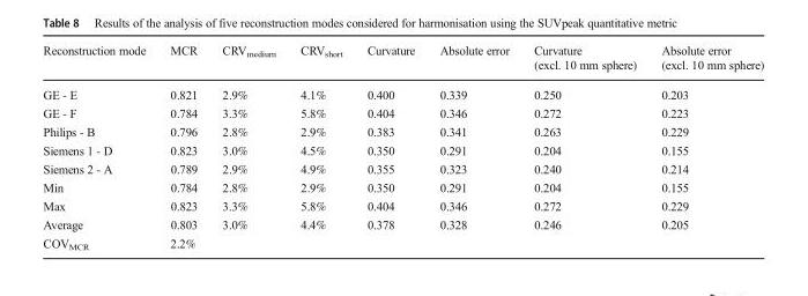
<table><thead><tr><td>Reconstruction mode</td><td>MCR</td><td>CRV<sub>medium</sub></td><td>CRV<sub>short</sub></td><td>Curvature</td><td>Absolute error</td><td>Curvature (excl. 10 mm sphere)</td><td>Absolute error (excl. 10 mm sphere)</td></tr></thead><tbody><tr><td>GE - E</td><td>0.821</td><td>2.9%</td><td>4.1%</td><td>0.400</td><td>0.339</td><td>0.250</td><td>0.203</td></tr><tr><td>GE - F</td><td>0.784</td><td>3.3%</td><td>5.8%</td><td>0.404</td><td>0.346</td><td>0.272</td><td>0.223</td></tr><tr><td>Philips - B</td><td>0.796</td><td>2.8%</td><td>2.9%</td><td>0.383</td><td>0.341</td><td>0.263</td><td>0.229</td></tr><tr><td>Siemens 1 - D</td><td>0.823</td><td>3.0%</td><td>4.5%</td><td>0.350</td><td>0.291</td><td>0.204</td><td>0.155</td></tr><tr><td>Siemens 2 - A</td><td>0.789</td><td>2.9%</td><td>4.9%</td><td>0.355</td><td>0.323</td><td>0.240</td><td>0.214</td></tr><tr><td>Min</td><td>0.784</td><td>2.8%</td><td>2.9%</td><td>0.350</td><td>0.291</td><td>0.204</td><td>0.155</td></tr><tr><td>Max</td><td>0.823</td><td>3.3%</td><td>5.8%</td><td>0.404</td><td>0.346</td><td>0.272</td><td>0.229</td></tr><tr><td>Average</td><td>0.803</td><td>3.0%</td><td>4.4%</td><td>0.378</td><td>0.328</td><td>0.246</td><td>0.205</td></tr><tr><td>COV<sub>MCR</sub></td><td>2.2%</td><td></td><td></td><td></td><td></td><td></td><td></td></tr></tbody></table>